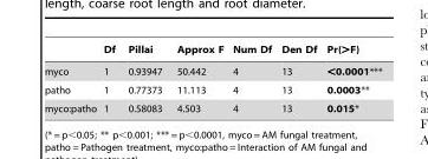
<table><thead><tr><td></td><td>Df</td><td>Pillai</td><td>Approx F</td><td>Num Df</td><td>Den Df</td><td>Pr(&gt;F)</td></tr></thead><tbody><tr><td>myco</td><td>1</td><td>0.93947</td><td>50.442</td><td>4</td><td>13</td><td>&lt;0.0001***</td></tr><tr><td>patho</td><td>1</td><td>0.77373</td><td>11.113</td><td>4</td><td>13</td><td>0.0003**</td></tr><tr><td>myco:patho</td><td>1</td><td>0.58083</td><td>4.503</td><td>4</td><td>13</td><td>0.015*</td></tr></tbody></table>